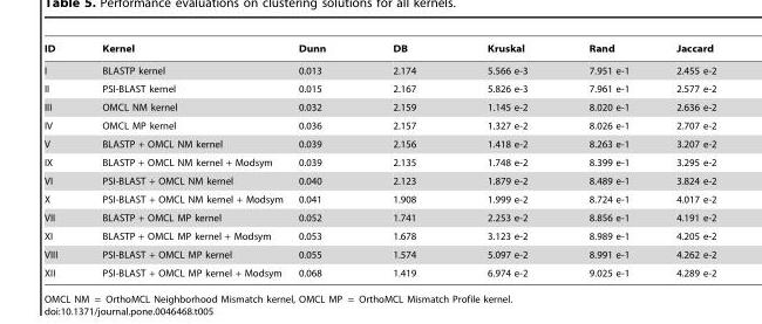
<table><thead><tr><td>ID</td><td>Kernel</td><td>Dunn</td><td>DB</td><td>Kruskal</td><td>Rand</td><td>Jaccard</td></tr></thead><tbody><tr><td>I</td><td>BLASTP kernel</td><td>0.013</td><td>2.174</td><td>5.566 e-3</td><td>7.951 e-1</td><td>2.455 e-2</td></tr><tr><td>II</td><td>PSI-BLAST kernel</td><td>0.015</td><td>2.167</td><td>5.826 e-3</td><td>7.961 e-1</td><td>2.577 e-2</td></tr><tr><td>III</td><td>OMCL NM kernel</td><td>0.032</td><td>2.159</td><td>1.145 e-2</td><td>8.020 e-1</td><td>2.636 e-2</td></tr><tr><td>IV</td><td>OMCL MP kernel</td><td>0.036</td><td>2.157</td><td>1.327 e-2</td><td>8.026 e-1</td><td>2.707 e-2</td></tr><tr><td>V</td><td>BLASTP + OMCL NM kernel</td><td>0.039</td><td>2.156</td><td>1.418 e-2</td><td>8.263 e-1</td><td>3.207 e-2</td></tr><tr><td>IX</td><td>BLASTP + OMCL NM kernel + Modsym</td><td>0.039</td><td>2.135</td><td>1.748 e-2</td><td>8.399 e-1</td><td>3.295 e-2</td></tr><tr><td>VI</td><td>PSI-BLAST + OMCL NM kernel</td><td>0.040</td><td>2.123</td><td>1.879 e-2</td><td>8.489 e-1</td><td>3.824 e-2</td></tr><tr><td>X</td><td>PSI-BLAST + OMCL NM kernel + Modsym</td><td>0.041</td><td>1.908</td><td>1.999 e-2</td><td>8.724 e-1</td><td>4.017 e-2</td></tr><tr><td>VII</td><td>BLASTP + OMCL MP kernel</td><td>0.052</td><td>1.741</td><td>2.253 e-2</td><td>8.856 e-1</td><td>4.191 e-2</td></tr><tr><td>XI</td><td>BLASTP + OMCL MP kernel + Modsym</td><td>0.053</td><td>1.678</td><td>3.123 e-2</td><td>8.989 e-1</td><td>4.205 e-2</td></tr><tr><td>VIII</td><td>PSI-BLAST + OMCL MP kernel</td><td>0.055</td><td>1.574</td><td>5.097 e-2</td><td>8.991 e-1</td><td>4.262 e-2</td></tr><tr><td>XII</td><td>PSI-BLAST + OMCL MP kernel + Modsym</td><td>0.068</td><td>1.419</td><td>6.974 e-2</td><td>9.025 e-1</td><td>4.289 e-2</td></tr></tbody></table>